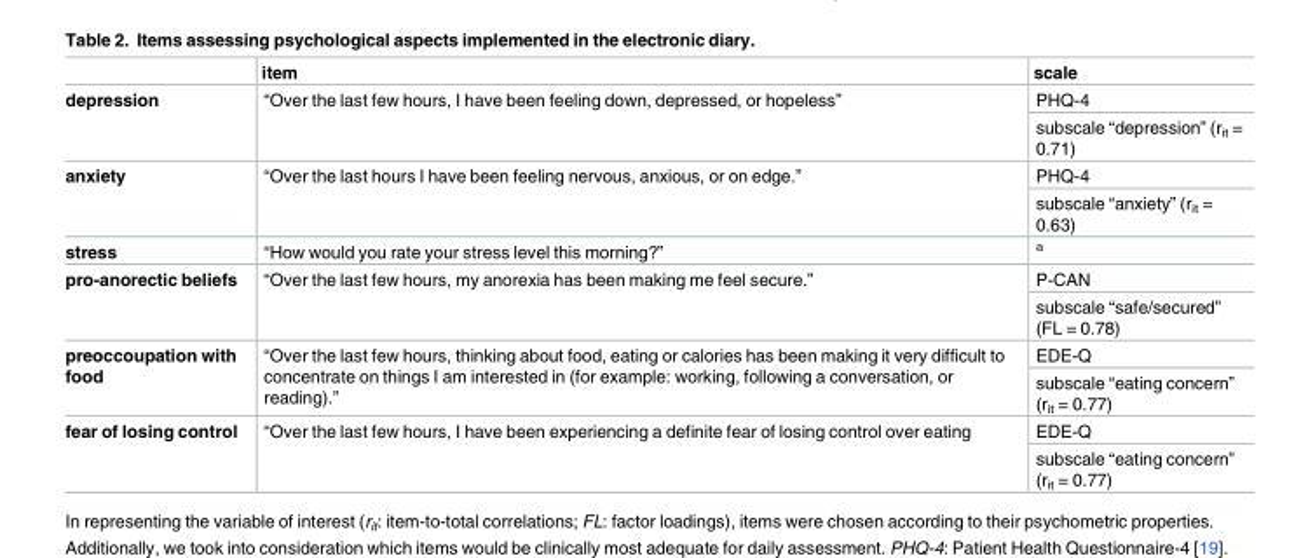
<table><thead><tr><td></td><td>item</td><td>scale</td></tr></thead><tbody><tr><td rowspan="2">depression</td><td rowspan="2">“Over the last few hours, I have been feeling down, depressed, or hopeless”</td><td>PHQ-4</td></tr><tr><td>subscale “depression” (r<sub>it</sub> = 0.71)</td></tr><tr><td rowspan="2">anxiety</td><td rowspan="2">“Over the last hours I have been feeling nervous, anxious, or on edge.”</td><td>PHQ-4</td></tr><tr><td>subscale “anxiety” (r<sub>it</sub> = 0.63)</td></tr><tr><td>stress</td><td>“How would you rate your stress level this morning?”</td><td><sup>a</sup></td></tr><tr><td rowspan="2">pro-anorectic beliefs</td><td rowspan="2">“Over the last few hours, my anorexia has been making me feel secure.”</td><td>P-CAN</td></tr><tr><td>subscale “safe/secured” (FL = 0.78)</td></tr><tr><td rowspan="2">preoccoupation with food</td><td rowspan="2">“Over the last few hours, thinking about food, eating or calories has been making it very difficult to concentrate on things I am interested in (for example: working, following a conversation, or reading).”</td><td>EDE-Q</td></tr><tr><td>subscale “eating concern” (r<sub>it</sub> = 0.77)</td></tr><tr><td rowspan="2">fear of losing control</td><td rowspan="2">“Over the last few hours, I have been experiencing a definite fear of losing control over eating</td><td>EDE-Q</td></tr><tr><td>subscale “eating concern” (r<sub>it</sub> = 0.77)</td></tr></tbody></table>